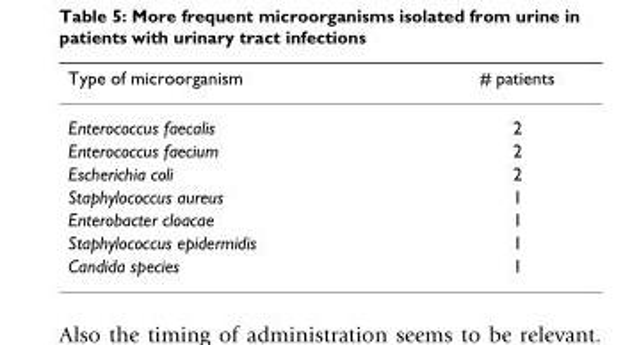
<table><thead><tr><td>Type of microorganism</td><td># patients</td></tr></thead><tbody><tr><td>Enterococcus faecalis</td><td>2</td></tr><tr><td>Enterococcus faecium</td><td>2</td></tr><tr><td>Escherichia coli</td><td>2</td></tr><tr><td>Staphylococcus aureus</td><td>1</td></tr><tr><td>Enterobacter cloacae</td><td>1</td></tr><tr><td>Staphylococcus epidermidis</td><td>1</td></tr><tr><td>Candida species</td><td>1</td></tr></tbody></table>